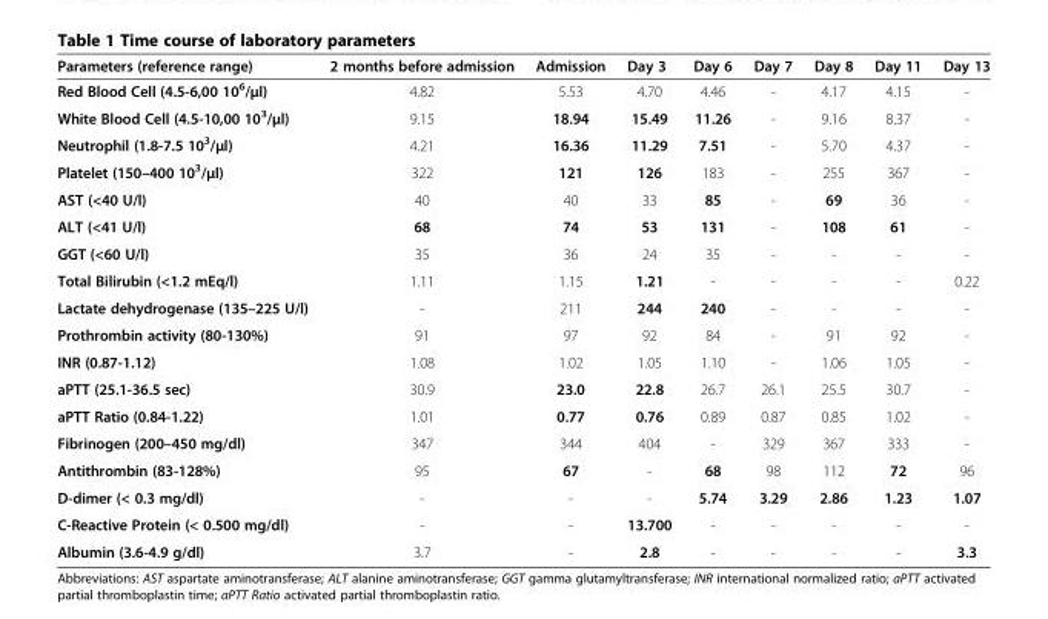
<table><thead><tr><td>Parameters (reference range)</td><td>2 months before admission</td><td>Admission</td><td>Day 3</td><td>Day 6</td><td>Day 7</td><td>Day 8</td><td>Day 11</td><td>Day 13</td></tr></thead><tbody><tr><td>Red Blood Cell (4.5-6,00 10<sup>6</sup>/μl)</td><td>4.82</td><td>5.53</td><td>4.70</td><td>4.46</td><td>-</td><td>4.17</td><td>4.15</td><td>-</td></tr><tr><td>White Blood Cell (4.5-10,00 10<sup>3</sup>/μl)</td><td>9.15</td><td>18.94</td><td>15.49</td><td>11.26</td><td>-</td><td>9.16</td><td>8.37</td><td>-</td></tr><tr><td>Neutrophil (1.8-7.5 10<sup>3</sup>/μl)</td><td>4.21</td><td>16.36</td><td>11.29</td><td>7.51</td><td>-</td><td>5.70</td><td>4.37</td><td>-</td></tr><tr><td>Platelet (150–400 10<sup>3</sup>/μl)</td><td>322</td><td>121</td><td>126</td><td>183</td><td>-</td><td>255</td><td>367</td><td>-</td></tr><tr><td>AST (&lt;40 U/l)</td><td>40</td><td>40</td><td>33</td><td>85</td><td>-</td><td>69</td><td>36</td><td>-</td></tr><tr><td>ALT (&lt;41 U/l)</td><td>68</td><td>74</td><td>53</td><td>131</td><td>-</td><td>108</td><td>61</td><td>-</td></tr><tr><td>GGT (&lt;60 U/l)</td><td>35</td><td>36</td><td>24</td><td>35</td><td>-</td><td>-</td><td>-</td><td>-</td></tr><tr><td>Total Bilirubin (&lt;1.2 mEq/l)</td><td>1.11</td><td>1.15</td><td>1.21</td><td>-</td><td>-</td><td>-</td><td>-</td><td>0.22</td></tr><tr><td>Lactate dehydrogenase (135–225 U/l)</td><td>-</td><td>211</td><td>244</td><td>240</td><td>-</td><td>-</td><td>-</td><td>-</td></tr><tr><td>Prothrombin activity (80-130%)</td><td>91</td><td>97</td><td>92</td><td>84</td><td>-</td><td>91</td><td>92</td><td>-</td></tr><tr><td>INR (0.87-1.12)</td><td>1.08</td><td>1.02</td><td>1.05</td><td>1.10</td><td>-</td><td>1.06</td><td>1.05</td><td>-</td></tr><tr><td>aPTT (25.1-36.5 sec)</td><td>30.9</td><td>23.0</td><td>22.8</td><td>26.7</td><td>26.1</td><td>25.5</td><td>30.7</td><td>-</td></tr><tr><td>aPTT Ratio (0.84-1.22)</td><td>1.01</td><td>0.77</td><td>0.76</td><td>0.89</td><td>0.87</td><td>0.85</td><td>1.02</td><td>-</td></tr><tr><td>Fibrinogen (200–450 mg/dl)</td><td>347</td><td>344</td><td>404</td><td>-</td><td>329</td><td>367</td><td>333</td><td>-</td></tr><tr><td>Antithrombin (83-128%)</td><td>95</td><td>67</td><td>-</td><td>68</td><td>98</td><td>112</td><td>72</td><td>96</td></tr><tr><td>D-dimer (&lt; 0.3 mg/dl)</td><td>-</td><td>-</td><td>-</td><td>5.74</td><td>3.29</td><td>2.86</td><td>1.23</td><td>1.07</td></tr><tr><td>C-Reactive Protein (&lt; 0.500 mg/dl)</td><td>-</td><td>-</td><td>13.700</td><td>-</td><td>-</td><td>-</td><td>-</td><td>-</td></tr><tr><td>Albumin (3.6-4.9 g/dl)</td><td>3.7</td><td>-</td><td>2.8</td><td>-</td><td>-</td><td>-</td><td>-</td><td>3.3</td></tr></tbody></table>